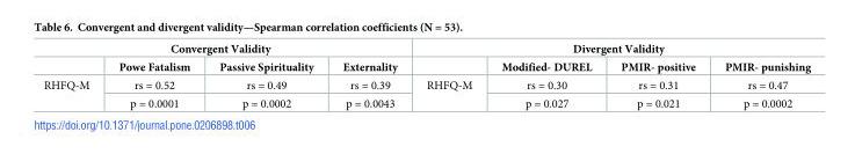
<table><thead><tr><td colspan="4">Convergent Validity</td><td colspan="4">Divergent Validity</td></tr><tr><td></td><td>Powe Fatalism</td><td>Passive Spirituality</td><td>Externality</td><td></td><td>Modified- DUREL</td><td>PMIR- positive</td><td>PMIR- punishing</td></tr></thead><tbody><tr><td rowspan="2">RHFQ-M</td><td>rs = 0.52</td><td>rs = 0.49</td><td>rs = 0.39</td><td rowspan="2">RHFQ-M</td><td>rs = 0.30</td><td>rs = 0.31</td><td>rs = 0.47</td></tr><tr><td>p = 0.0001</td><td>p = 0.0002</td><td>p = 0.0043</td><td>p = 0.027</td><td>p = 0.021</td><td>p = 0.0002</td></tr></tbody></table>